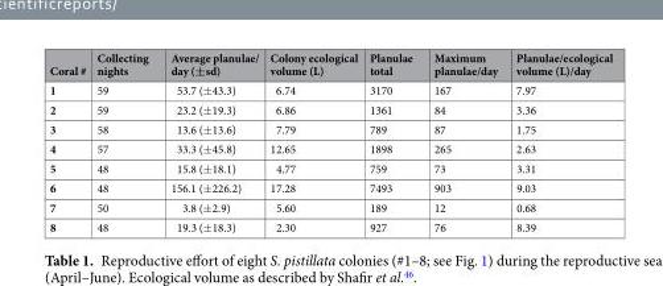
<table><thead><tr><td>Coral #</td><td>Collecting nights</td><td>Average planulae/ day (±sd)</td><td>Colony ecological volume (L)</td><td>Planulae total</td><td>Maximum planulae/day</td><td>Planulae/ecological volume (L)/day</td></tr></thead><tbody><tr><td>1</td><td>59</td><td>53.7 (±43.3)</td><td>6.74</td><td>3170</td><td>167</td><td>7.97</td></tr><tr><td>2</td><td>59</td><td>23.2 (±19.3)</td><td>6.86</td><td>1361</td><td>84</td><td>3.36</td></tr><tr><td>3</td><td>58</td><td>13.6 (±13.6)</td><td>7.79</td><td>789</td><td>87</td><td>1.75</td></tr><tr><td>4</td><td>57</td><td>33.3 (±45.8)</td><td>12.65</td><td>1898</td><td>265</td><td>2.63</td></tr><tr><td>5</td><td>48</td><td>15.8 (±18.1)</td><td>4.77</td><td>759</td><td>73</td><td>3.31</td></tr><tr><td>6</td><td>48</td><td>156.1 (±226.2)</td><td>17.28</td><td>7493</td><td>903</td><td>9.03</td></tr><tr><td>7</td><td>50</td><td>3.8 (±2.9)</td><td>5.60</td><td>189</td><td>12</td><td>0.68</td></tr><tr><td>8</td><td>48</td><td>19.3 (±18.3)</td><td>2.30</td><td>927</td><td>76</td><td>8.39</td></tr></tbody></table>